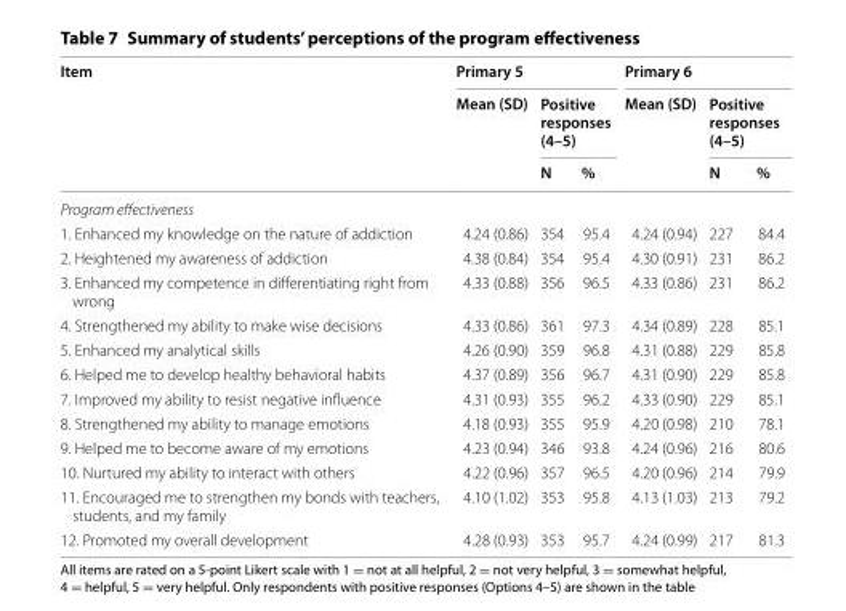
<table><thead><tr><td rowspan="3">Item</td><td colspan="3">Primary 5</td><td colspan="3">Primary 6</td></tr><tr><td rowspan="2">Mean (SD)</td><td colspan="2">Positive responses (4–5)</td><td rowspan="2">Mean (SD)</td><td colspan="2">Positive responses (4–5)</td></tr><tr><td>N</td><td>%</td><td>N</td><td>%</td></tr></thead><tbody><tr><td colspan="7">Program effectiveness</td></tr><tr><td>1. Enhanced my knowledge on the nature of addiction</td><td>4.24 (0.86)</td><td>354</td><td>95.4</td><td>4.24 (0.94)</td><td>227</td><td>84.4</td></tr><tr><td>2. Heightened my awareness of addiction</td><td>4.38 (0.84)</td><td>354</td><td>95.4</td><td>4.30 (0.91)</td><td>231</td><td>86.2</td></tr><tr><td>3. Enhanced my competence in differentiating right from wrong</td><td>4.33 (0.88)</td><td>356</td><td>96.5</td><td>4.33 (0.86)</td><td>231</td><td>86.2</td></tr><tr><td>4. Strengthened my ability to make wise decisions</td><td>4.33 (0.86)</td><td>361</td><td>97.3</td><td>4.34 (0.89)</td><td>228</td><td>85.1</td></tr><tr><td>5. Enhanced my analytical skills</td><td>4.26 (0.90)</td><td>359</td><td>96.8</td><td>4.31 (0.88)</td><td>229</td><td>85.8</td></tr><tr><td>6. Helped me to develop healthy behavioral habits</td><td>4.37 (0.89)</td><td>356</td><td>96.7</td><td>4.31 (0.90)</td><td>229</td><td>85.8</td></tr><tr><td>7. Improved my ability to resist negative influence</td><td>4.31 (0.93)</td><td>355</td><td>96.2</td><td>4.33 (0.90)</td><td>229</td><td>85.1</td></tr><tr><td>8. Strengthened my ability to manage emotions</td><td>4.18 (0.93)</td><td>355</td><td>95.9</td><td>4.20 (0.98)</td><td>210</td><td>78.1</td></tr><tr><td>9. Helped me to become aware of my emotions</td><td>4.23 (0.94)</td><td>346</td><td>93.8</td><td>4.24 (0.96)</td><td>216</td><td>80.6</td></tr><tr><td>10. Nurtured my ability to interact with others</td><td>4.22 (0.96)</td><td>357</td><td>96.5</td><td>4.20 (0.96)</td><td>214</td><td>79.9</td></tr><tr><td>11. Encouraged me to strengthen my bonds with teachers, students, and my family</td><td>4.10 (1.02)</td><td>353</td><td>95.8</td><td>4.13 (1.03)</td><td>213</td><td>79.2</td></tr><tr><td>12. Promoted my overall development</td><td>4.28 (0.93)</td><td>353</td><td>95.7</td><td>4.24 (0.99)</td><td>217</td><td>81.3</td></tr></tbody></table>